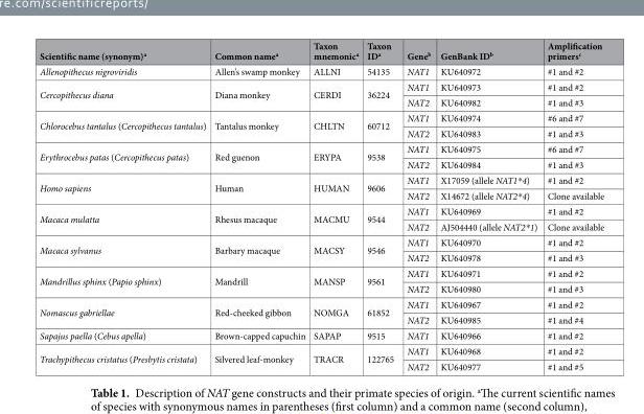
<table><thead><tr><td>Scientific name (synonym)<sup>a</sup></td><td>Common name<sup>a</sup></td><td>Taxon mnemonic<sup>a</sup></td><td>Taxon ID<sup>a</sup></td><td>Gene<sup>b</sup></td><td>GenBank ID<sup>b</sup></td><td>Amplification primers<sup>c</sup></td></tr></thead><tbody><tr><td>Allenopithecus nigroviridis</td><td>Allen’s swamp monkey</td><td>ALLNI</td><td>54135</td><td>NAT1</td><td>KU640972</td><td>#1 and #2</td></tr><tr><td rowspan="2">Cercopithecus diana</td><td rowspan="2">Diana monkey</td><td rowspan="2">CERDI</td><td rowspan="2">36224</td><td>NAT1</td><td>KU640973</td><td>#1 and #2</td></tr><tr><td>NAT2</td><td>KU640982</td><td>#1 and #3</td></tr><tr><td rowspan="2">Chlorocebus tantalus (Cercopithecus tantalus)</td><td rowspan="2">Tantalus monkey</td><td rowspan="2">CHLTN</td><td rowspan="2">60712</td><td>NAT1</td><td>KU640974</td><td>#6 and #7</td></tr><tr><td>NAT2</td><td>KU640983</td><td>#1 and #3</td></tr><tr><td rowspan="2">Erythrocebus patas (Cercopithecus patas)</td><td rowspan="2">Red guenon</td><td rowspan="2">ERYPA</td><td rowspan="2">9538</td><td>NAT1</td><td>KU640975</td><td>#6 and #7</td></tr><tr><td>NAT2</td><td>KU640984</td><td>#1 and #3</td></tr><tr><td rowspan="2">Homo sapiens</td><td rowspan="2">Human</td><td rowspan="2">HUMAN</td><td rowspan="2">9606</td><td>NAT1</td><td>X17059 (allele NAT1*4)</td><td>#1 and #2</td></tr><tr><td>NAT2</td><td>X14672 (allele NAT2*4)</td><td>Clone available</td></tr><tr><td rowspan="2">Macaca mulatta</td><td rowspan="2">Rhesus macaque</td><td rowspan="2">MACMU</td><td rowspan="2">9544</td><td>NAT1</td><td>KU640969</td><td>#1 and #2</td></tr><tr><td>NAT2</td><td>AJ504440 (allele NAT2*1)</td><td>Clone available</td></tr><tr><td rowspan="2">Macaca sylvanus</td><td rowspan="2">Barbary macaque</td><td rowspan="2">MACSY</td><td rowspan="2">9546</td><td>NAT1</td><td>KU640970</td><td>#1 and #2</td></tr><tr><td>NAT2</td><td>KU640978</td><td>#1 and #3</td></tr><tr><td rowspan="2">Mandrillus sphinx (Papio sphinx)</td><td rowspan="2">Mandrill</td><td rowspan="2">MANSP</td><td rowspan="2">9561</td><td>NAT1</td><td>KU640971</td><td>#1 and #2</td></tr><tr><td>NAT2</td><td>KU640980</td><td>#1 and #3</td></tr><tr><td rowspan="2">Nomascus gabriellae</td><td rowspan="2">Red-cheeked gibbon</td><td rowspan="2">NOMGA</td><td rowspan="2">61852</td><td>NAT1</td><td>KU640967</td><td>#1 and #2</td></tr><tr><td>NAT2</td><td>KU640985</td><td>#1 and #4</td></tr><tr><td>Sapajus paella (Cebus apella)</td><td>Brown-capped capuchin</td><td>SAPAP</td><td>9515</td><td>NAT1</td><td>KU640966</td><td>#1 and #2</td></tr><tr><td rowspan="2">Trachypithecus cristatus (Presbytis cristata)</td><td rowspan="2">Silvered leaf-monkey</td><td rowspan="2">TRACR</td><td rowspan="2">122765</td><td>NAT1</td><td>KU640968</td><td>#1 and #2</td></tr><tr><td>NAT2</td><td>KU640977</td><td>#1 and #5</td></tr></tbody></table>